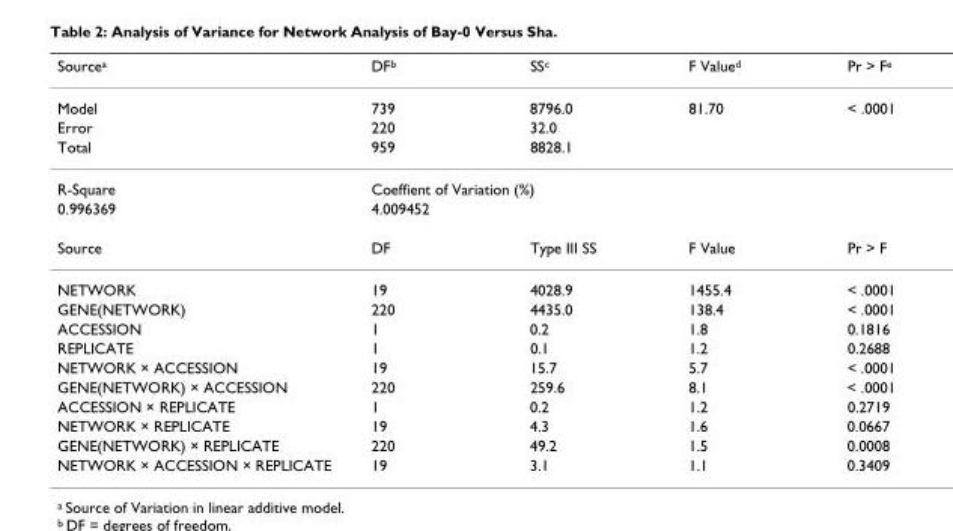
<table><thead><tr><td>Sourcea</td><td>DFb</td><td>SSc</td><td>F Valued</td><td>Pr &gt; Fe</td></tr></thead><tbody><tr><td>Model</td><td>739</td><td>8796.0</td><td>81.70</td><td>&lt; .0001</td></tr><tr><td>Error</td><td>220</td><td>32.0</td><td></td><td></td></tr><tr><td>Total</td><td>959</td><td>8828.1</td><td></td><td></td></tr><tr><td>R-Square</td><td colspan="2">Coeffient of Variation (%)</td><td></td><td></td></tr><tr><td>0.996369</td><td colspan="2">4.009452</td><td></td><td></td></tr><tr><td>Source</td><td>DF</td><td>Type III SS</td><td>F Value</td><td>Pr &gt; F</td></tr><tr><td>NETWORK</td><td>19</td><td>4028.9</td><td>1455.4</td><td>&lt; .0001</td></tr><tr><td>GENE(NETWORK)</td><td>220</td><td>4435.0</td><td>138.4</td><td>&lt; .0001</td></tr><tr><td>ACCESSION</td><td>1</td><td>0.2</td><td>1.8</td><td>0.1816</td></tr><tr><td>REPLICATE</td><td>1</td><td>0.1</td><td>1.2</td><td>0.2688</td></tr><tr><td>NETWORK × ACCESSION</td><td>19</td><td>15.7</td><td>5.7</td><td>&lt; .0001</td></tr><tr><td>GENE(NETWORK) × ACCESSION</td><td>220</td><td>259.6</td><td>8.1</td><td>&lt; .0001</td></tr><tr><td>ACCESSION × REPLICATE</td><td>1</td><td>0.2</td><td>1.2</td><td>0.2719</td></tr><tr><td>NETWORK × REPLICATE</td><td>19</td><td>4.3</td><td>1.6</td><td>0.0667</td></tr><tr><td>GENE(NETWORK) × REPLICATE</td><td>220</td><td>49.2</td><td>1.5</td><td>0.0008</td></tr><tr><td>NETWORK × ACCESSION × REPLICATE</td><td>19</td><td>3.1</td><td>1.1</td><td>0.3409</td></tr></tbody></table>